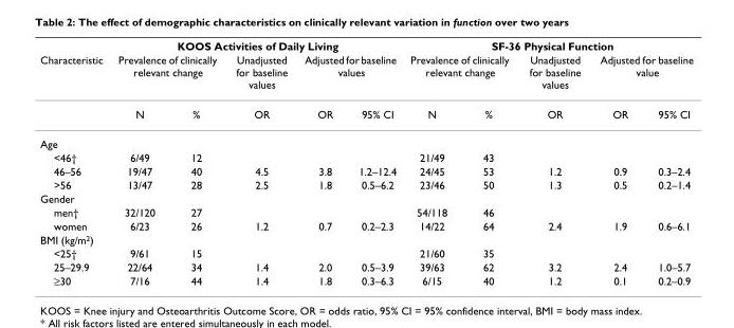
<table><thead><tr><td rowspan="3">Characteristic</td><td colspan="5">KOOS Activities of Daily Living</td><td colspan="5">SF-36 Physical Function</td></tr><tr><td colspan="2">Prevalence of clinically relevant change</td><td rowspan="2">Unadjusted for baseline values OR</td><td colspan="2">Adjusted for baseline values</td><td colspan="2">Prevalence of clinically relevant change</td><td rowspan="2">Unadjusted for baseline values OR</td><td colspan="2">Adjusted for baseline value</td></tr><tr><td>N</td><td>%</td><td>OR</td><td>95% CI</td><td>N</td><td>%</td><td>OR</td><td>95% CI</td></tr></thead><tbody><tr><td colspan="11">Age</td></tr><tr><td>&lt;46†</td><td>6/49</td><td>12</td><td></td><td></td><td></td><td>21/49</td><td>43</td><td></td><td></td><td></td></tr><tr><td>46–56</td><td>19/47</td><td>40</td><td>4.5</td><td>3.8</td><td>1.2–12.4</td><td>24/45</td><td>53</td><td>1.2</td><td>0.9</td><td>0.3–2.4</td></tr><tr><td>&gt;56</td><td>13/47</td><td>28</td><td>2.5</td><td>1.8</td><td>0.5–6.2</td><td>23/46</td><td>50</td><td>1.3</td><td>0.5</td><td>0.2–1.4</td></tr><tr><td colspan="11">Gender</td></tr><tr><td>men†</td><td>32/120</td><td>27</td><td></td><td></td><td></td><td>54/118</td><td>46</td><td></td><td></td><td></td></tr><tr><td>women</td><td>6/23</td><td>26</td><td>1.2</td><td>0.7</td><td>0.2–2.3</td><td>14/22</td><td>64</td><td>2.4</td><td>1.9</td><td>0.6–6.1</td></tr><tr><td colspan="11">BMI (kg/m<sup>2</sup>)</td></tr><tr><td>&lt;25†</td><td>9/61</td><td>15</td><td></td><td></td><td></td><td>21/60</td><td>35</td><td></td><td></td><td></td></tr><tr><td>25–29.9</td><td>22/64</td><td>34</td><td>1.4</td><td>2.0</td><td>0.5–3.9</td><td>39/63</td><td>62</td><td>3.2</td><td>2.4</td><td>1.0–5.7</td></tr><tr><td>≥30</td><td>7/16</td><td>44</td><td>1.4</td><td>1.8</td><td>0.3–6.3</td><td>6/15</td><td>40</td><td>1.2</td><td>0.1</td><td>0.2–0.9</td></tr></tbody></table>